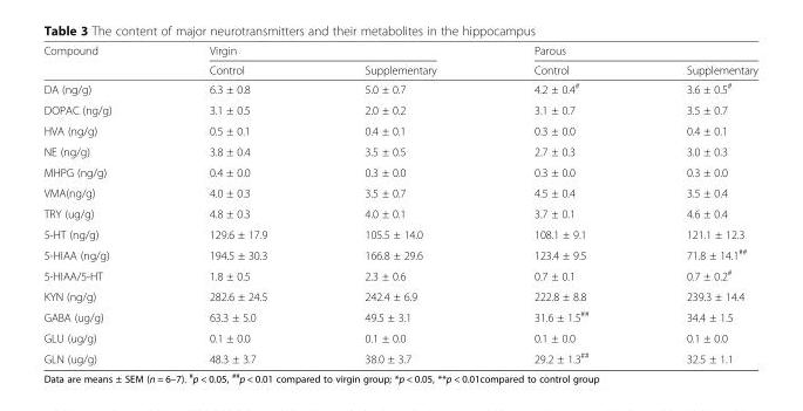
<table><thead><tr><td rowspan="2">Compound</td><td colspan="2">Virgin</td><td colspan="2">Parous</td></tr><tr><td>Control</td><td>Supplementary</td><td>Control</td><td>Supplementary</td></tr></thead><tbody><tr><td>DA (ng/g)</td><td>6.3 ± 0.8</td><td>5.0 ± 0.7</td><td>4.2 ± 0.4<sup>#</sup></td><td>3.6 ± 0.5<sup>#</sup></td></tr><tr><td>DOPAC (ng/g)</td><td>3.1 ± 0.5</td><td>2.0 ± 0.2</td><td>3.1 ± 0.7</td><td>3.5 ± 0.7</td></tr><tr><td>HVA (ng/g)</td><td>0.5 ± 0.1</td><td>0.4 ± 0.1</td><td>0.3 ± 0.0</td><td>0.4 ± 0.1</td></tr><tr><td>NE (ng/g)</td><td>3.8 ± 0.4</td><td>3.5 ± 0.5</td><td>2.7 ± 0.3</td><td>3.0 ± 0.3</td></tr><tr><td>MHPG (ng/g)</td><td>0.4 ± 0.0</td><td>0.3 ± 0.0</td><td>0.3 ± 0.0</td><td>0.3 ± 0.0</td></tr><tr><td>VMA(ng/g)</td><td>4.0 ± 0.3</td><td>3.5 ± 0.7</td><td>4.5 ± 0.4</td><td>3.5 ± 0.4</td></tr><tr><td>TRY (ug/g)</td><td>4.8 ± 0.3</td><td>4.0 ± 0.1</td><td>3.7 ± 0.1</td><td>4.6 ± 0.4</td></tr><tr><td>5-HT (ng/g)</td><td>129.6 ± 17.9</td><td>105.5 ± 14.0</td><td>108.1 ± 9.1</td><td>121.1 ± 12.3</td></tr><tr><td>5-HIAA (ng/g)</td><td>194.5 ± 30.3</td><td>166.8 ± 29.6</td><td>123.4 ± 9.5</td><td>71.8 ± 14.1<sup>##</sup></td></tr><tr><td>5-HIAA/5-HT</td><td>1.8 ± 0.5</td><td>2.3 ± 0.6</td><td>0.7 ± 0.1</td><td>0.7 ± 0.2<sup>#</sup></td></tr><tr><td>KYN (ng/g)</td><td>282.6 ± 24.5</td><td>242.4 ± 6.9</td><td>222.8 ± 8.8</td><td>239.3 ± 14.4</td></tr><tr><td>GABA (ug/g)</td><td>63.3 ± 5.0</td><td>49.5 ± 3.1</td><td>31.6 ± 1.5<sup>##</sup></td><td>34.4 ± 1.5</td></tr><tr><td>GLU (ug/g)</td><td>0.1 ± 0.0</td><td>0.1 ± 0.0</td><td>0.1 ± 0.0</td><td>0.1 ± 0.0</td></tr><tr><td>GLN (ug/g)</td><td>48.3 ± 3.7</td><td>38.0 ± 3.7</td><td>29.2 ± 1.3<sup>##</sup></td><td>32.5 ± 1.1</td></tr></tbody></table>